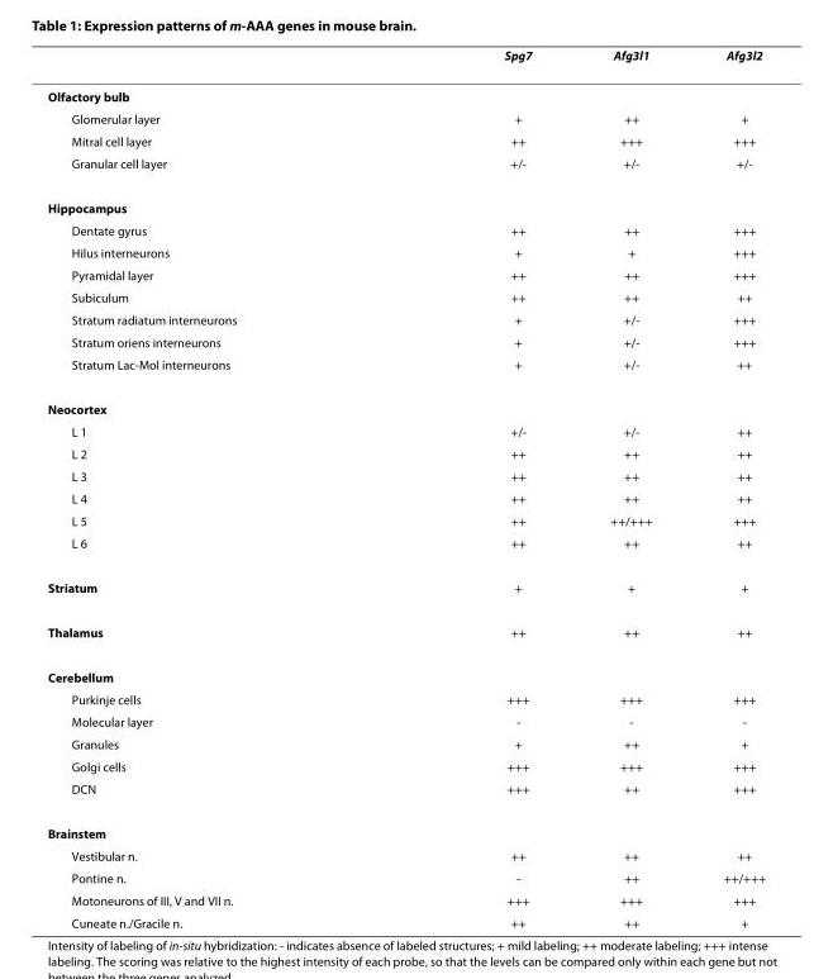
<table><thead><tr><td></td><td>Spg7</td><td>Afg3l1</td><td>Afg3l2</td></tr></thead><tbody><tr><td colspan="4">Olfactory bulb</td></tr><tr><td>Glomerular layer</td><td>+</td><td>++</td><td>+</td></tr><tr><td>Mitral cell layer</td><td>++</td><td>+++</td><td>+++</td></tr><tr><td>Granular cell layer</td><td>+/-</td><td>+/-</td><td>+/-</td></tr><tr><td colspan="4">Hippocampus</td></tr><tr><td>Dentate gyrus</td><td>++</td><td>++</td><td>+++</td></tr><tr><td>Hilus interneurons</td><td>+</td><td>+</td><td>+++</td></tr><tr><td>Pyramidal layer</td><td>++</td><td>++</td><td>+++</td></tr><tr><td>Subiculum</td><td>++</td><td>++</td><td>++</td></tr><tr><td>Stratum radiatum interneurons</td><td>+</td><td>+/-</td><td>+++</td></tr><tr><td>Stratum oriens interneurons</td><td>+</td><td>+/-</td><td>+++</td></tr><tr><td>Stratum Lac-Mol interneurons</td><td>+</td><td>+/-</td><td>++</td></tr><tr><td colspan="4">Neocortex</td></tr><tr><td>L 1</td><td>+/-</td><td>+/-</td><td>++</td></tr><tr><td>L 2</td><td>++</td><td>++</td><td>++</td></tr><tr><td>L 3</td><td>++</td><td>++</td><td>++</td></tr><tr><td>L 4</td><td>++</td><td>++</td><td>++</td></tr><tr><td>L 5</td><td>++</td><td>++/+++</td><td>+++</td></tr><tr><td>L 6</td><td>++</td><td>++</td><td>++</td></tr><tr><td>Striatum</td><td>+</td><td>+</td><td>+</td></tr><tr><td>Thalamus</td><td>++</td><td>++</td><td>++</td></tr><tr><td colspan="4">Cerebellum</td></tr><tr><td>Purkinje cells</td><td>+++</td><td>+++</td><td>+++</td></tr><tr><td>Molecular layer</td><td>-</td><td>-</td><td>-</td></tr><tr><td>Granules</td><td>+</td><td>++</td><td>+</td></tr><tr><td>Golgi cells</td><td>+++</td><td>+++</td><td>+++</td></tr><tr><td>DCN</td><td>+++</td><td>++</td><td>+++</td></tr><tr><td colspan="4">Brainstem</td></tr><tr><td>Vestibular n.</td><td>++</td><td>++</td><td>++</td></tr><tr><td>Pontine n.</td><td>-</td><td>++</td><td>++/+++</td></tr><tr><td>Motoneurons of III, V and VII n.</td><td>+++</td><td>+++</td><td>+++</td></tr><tr><td>Cuneate n./Gracile n.</td><td>++</td><td>++</td><td>+</td></tr></tbody></table>